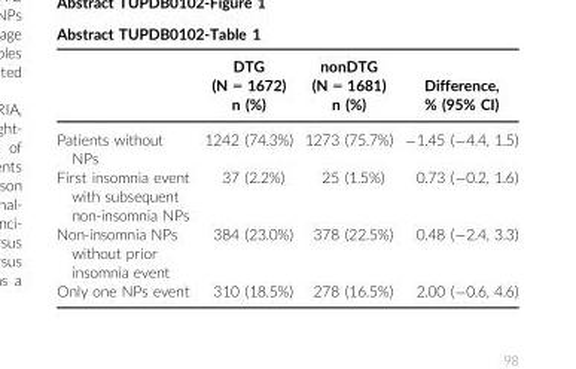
<table><thead><tr><td></td><td>DTG (N = 1672) n (%)</td><td>nonDTG (N = 1681) n (%)</td><td>Difference, % (95% CI)</td></tr></thead><tbody><tr><td>Patients without NPs</td><td>1242 (74.3%)</td><td>1273 (75.7%)</td><td>−1.45 (−4.4, 1.5)</td></tr><tr><td>First insomnia event with subsequent non-insomnia NPs</td><td>37 (2.2%)</td><td>25 (1.5%)</td><td>0.73 (−0.2, 1.6)</td></tr><tr><td>Non-insomnia NPs without prior insomnia event</td><td>384 (23.0%)</td><td>378 (22.5%)</td><td>0.48 (−2.4, 3.3)</td></tr><tr><td>Only one NPs event</td><td>310 (18.5%)</td><td>278 (16.5%)</td><td>2.00 (−0.6, 4.6)</td></tr></tbody></table>